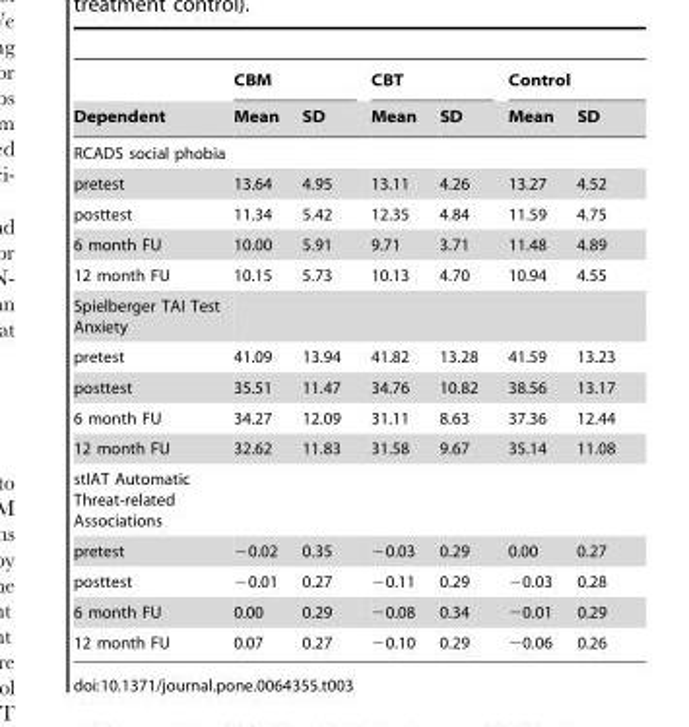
<table><thead><tr><td rowspan="2">Dependent</td><td colspan="2">CBM</td><td colspan="2">CBT</td><td colspan="2">Control</td></tr><tr><td>Mean</td><td>SD</td><td>Mean</td><td>SD</td><td>Mean</td><td>SD</td></tr></thead><tbody><tr><td colspan="7">RCADS social phobia</td></tr><tr><td>pretest</td><td>13.64</td><td>4.95</td><td>13.11</td><td>4.26</td><td>13.27</td><td>4.52</td></tr><tr><td>posttest</td><td>11.34</td><td>5.42</td><td>12.35</td><td>4.84</td><td>11.59</td><td>4.75</td></tr><tr><td>6 month FU</td><td>10.00</td><td>5.91</td><td>9.71</td><td>3.71</td><td>11.48</td><td>4.89</td></tr><tr><td>12 month FU</td><td>10.15</td><td>5.73</td><td>10.13</td><td>4.70</td><td>10.94</td><td>4.55</td></tr><tr><td colspan="7">Spielberger TAI Test Anxiety</td></tr><tr><td>pretest</td><td>41.09</td><td>13.94</td><td>41.82</td><td>13.28</td><td>41.59</td><td>13.23</td></tr><tr><td>posttest</td><td>35.51</td><td>11.47</td><td>34.76</td><td>10.82</td><td>38.56</td><td>13.17</td></tr><tr><td>6 month FU</td><td>34.27</td><td>12.09</td><td>31.11</td><td>8.63</td><td>37.36</td><td>12.44</td></tr><tr><td>12 month FU</td><td>32.62</td><td>11.83</td><td>31.58</td><td>9.67</td><td>35.14</td><td>11.08</td></tr><tr><td colspan="7">stIAT Automatic Threat-related Associations</td></tr><tr><td>pretest</td><td>−0.02</td><td>0.35</td><td>−0.03</td><td>0.29</td><td>0.00</td><td>0.27</td></tr><tr><td>posttest</td><td>−0.01</td><td>0.27</td><td>−0.11</td><td>0.29</td><td>−0.03</td><td>0.28</td></tr><tr><td>6 month FU</td><td>0.00</td><td>0.29</td><td>−0.08</td><td>0.34</td><td>−0.01</td><td>0.29</td></tr><tr><td>12 month FU</td><td>0.07</td><td>0.27</td><td>−0.10</td><td>0.29</td><td>−0.06</td><td>0.26</td></tr></tbody></table>